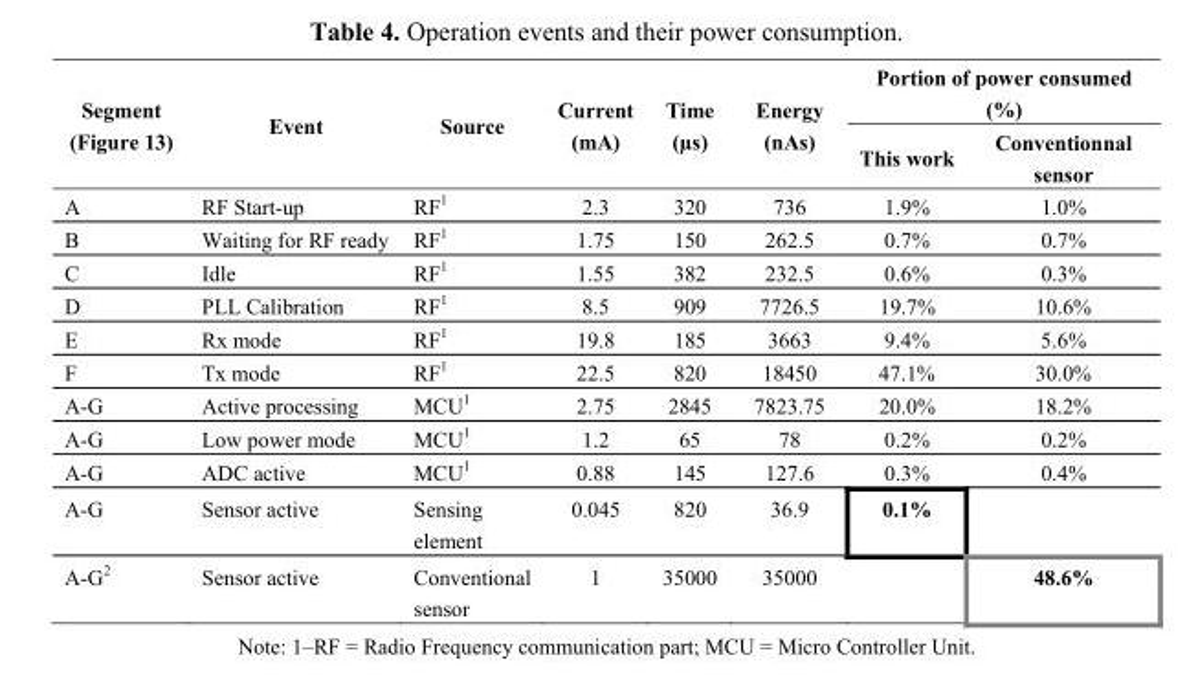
<table><thead><tr><td rowspan="2">Segment (Figure 13)</td><td rowspan="2">Event</td><td rowspan="2">Source</td><td rowspan="2">Current (mA)</td><td rowspan="2">Time (µs)</td><td rowspan="2">Energy (nAs)</td><td colspan="2">Portion of power consumed (%)</td></tr><tr><td>This work</td><td>Conventionnal sensor</td></tr></thead><tbody><tr><td>A</td><td>RF Start-up</td><td>RF<sup>1</sup></td><td>2.3</td><td>320</td><td>736</td><td>1.9%</td><td>1.0%</td></tr><tr><td>B</td><td>Waiting for RF ready</td><td>RF<sup>1</sup></td><td>1.75</td><td>150</td><td>262.5</td><td>0.7%</td><td>0.7%</td></tr><tr><td>C</td><td>Idle</td><td>RF<sup>1</sup></td><td>1.55</td><td>382</td><td>232.5</td><td>0.6%</td><td>0.3%</td></tr><tr><td>D</td><td>PLL Calibration</td><td>RF<sup>1</sup></td><td>8.5</td><td>909</td><td>7726.5</td><td>19.7%</td><td>10.6%</td></tr><tr><td>E</td><td>Rx mode</td><td>RF<sup>1</sup></td><td>19.8</td><td>185</td><td>3663</td><td>9.4%</td><td>5.6%</td></tr><tr><td>F</td><td>Tx mode</td><td>RF<sup>1</sup></td><td>22.5</td><td>820</td><td>18450</td><td>47.1%</td><td>30.0%</td></tr><tr><td>A-G</td><td>Active processing</td><td>MCU<sup>1</sup></td><td>2.75</td><td>2845</td><td>7823.75</td><td>20.0%</td><td>18.2%</td></tr><tr><td>A-G</td><td>Low power mode</td><td>MCU<sup>1</sup></td><td>1.2</td><td>65</td><td>78</td><td>0.2%</td><td>0.2%</td></tr><tr><td>A-G</td><td>ADC active</td><td>MCU<sup>1</sup></td><td>0.88</td><td>145</td><td>127.6</td><td>0.3%</td><td>0.4%</td></tr><tr><td>A-G</td><td>Sensor active</td><td>Sensing element</td><td>0.045</td><td>820</td><td>36.9</td><td>0.1%</td><td></td></tr><tr><td>A-G<sup>2</sup></td><td>Sensor active</td><td>Conventional sensor</td><td>1</td><td>35000</td><td>35000</td><td></td><td>48.6%</td></tr></tbody></table>